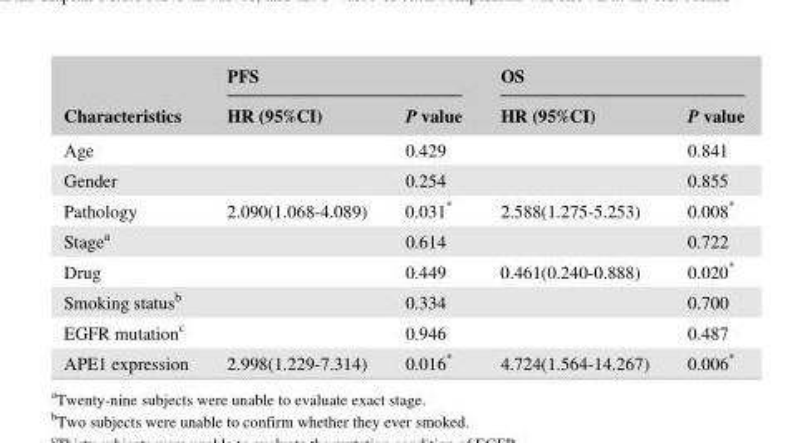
<table><thead><tr><td rowspan="2">Characteristics</td><td colspan="2">PFS</td><td colspan="2">OS</td></tr><tr><td>HR (95%CI)</td><td>P value</td><td>HR (95%CI)</td><td>P value</td></tr></thead><tbody><tr><td>Age</td><td></td><td>0.429</td><td></td><td>0.841</td></tr><tr><td>Gender</td><td></td><td>0.254</td><td></td><td>0.855</td></tr><tr><td>Pathology</td><td>2.090(1.068- 4.089)</td><td>0.031*</td><td>2.588(1.275- 5.253)</td><td>0.008*</td></tr><tr><td>Stage<sup>a</sup></td><td></td><td>0.614</td><td></td><td>0.722</td></tr><tr><td>Drug</td><td></td><td>0.449</td><td>0.461(0.240- 0.888)</td><td>0.020*</td></tr><tr><td>Smoking status<sup>b</sup></td><td></td><td>0.334</td><td></td><td>0.700</td></tr><tr><td>EGFR mutation<sup>c</sup></td><td></td><td>0.946</td><td></td><td>0.487</td></tr><tr><td>APE1 expression</td><td>2.998(1.229- 7.314)</td><td>0.016*</td><td>4.724(1.564- 14.267)</td><td>0.006*</td></tr></tbody></table>